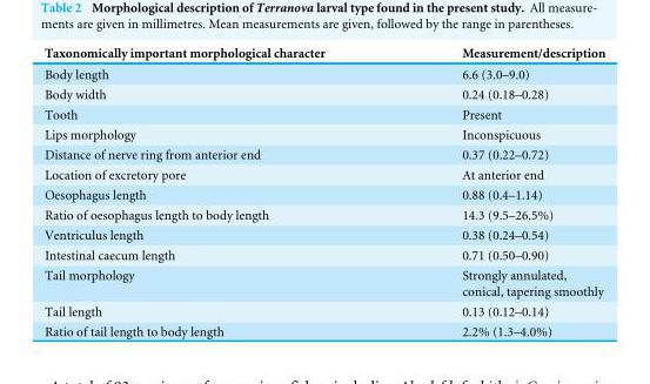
<table><thead><tr><td>Taxonomically important morphological character</td><td>Measurement/description</td></tr></thead><tbody><tr><td>Body length</td><td>6.6 (3.0–9.0)</td></tr><tr><td>Body width</td><td>0.24 (0.18–0.28)</td></tr><tr><td>Tooth</td><td>Present</td></tr><tr><td>Lips morphology</td><td>Inconspicuous</td></tr><tr><td>Distance of nerve ring from anterior end</td><td>0.37 (0.22–0.72)</td></tr><tr><td>Location of excretory pore</td><td>At anterior end</td></tr><tr><td>Oesophagus length</td><td>0.88 (0.4–1.14)</td></tr><tr><td>Ratio of oesophagus length to body length</td><td>14.3 (9.5–26.5%)</td></tr><tr><td>Ventriculus length</td><td>0.38 (0.24–0.54)</td></tr><tr><td>Intestinal caecum length</td><td>0.71 (0.50–0.90)</td></tr><tr><td>Tail morphology</td><td>Strongly annulated, conical, tapering smoothly</td></tr><tr><td>Tail length</td><td>0.13 (0.12–0.14)</td></tr><tr><td>Ratio of tail length to body length</td><td>2.2% (1.3–4.0%)</td></tr></tbody></table>